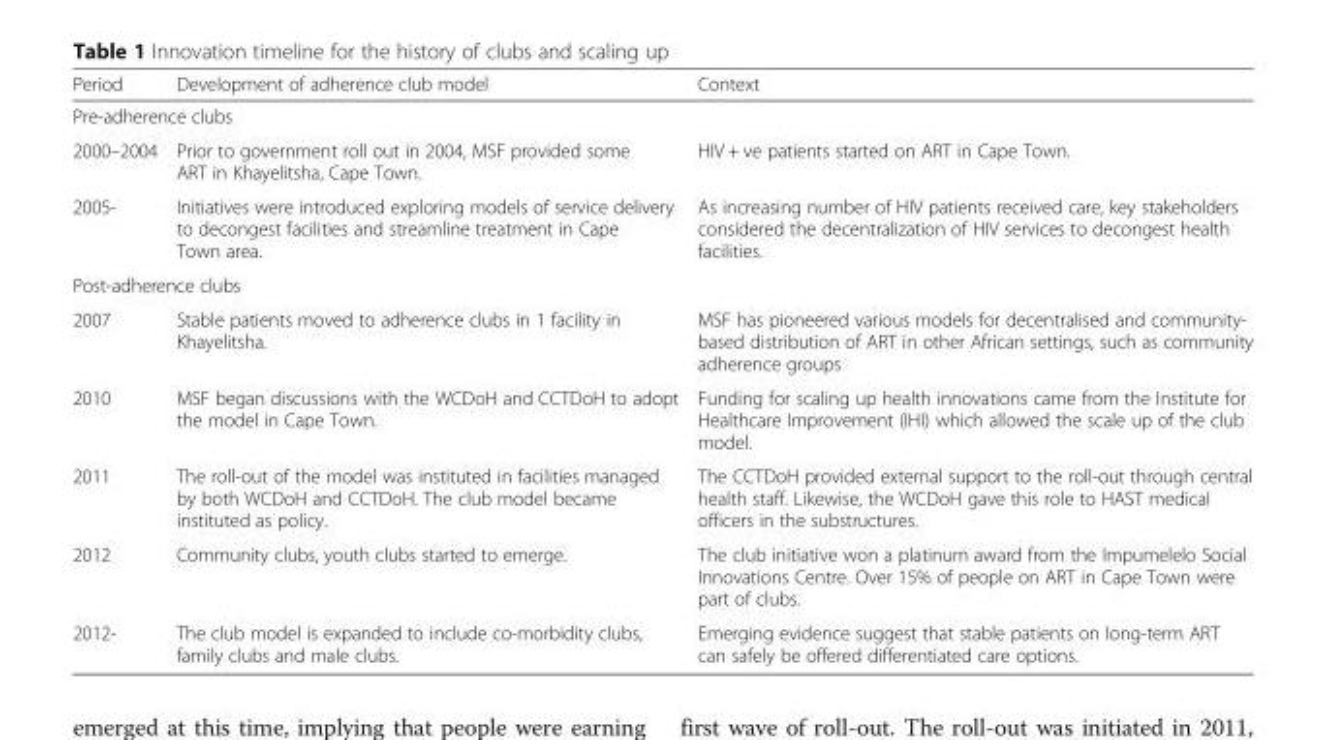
<table><thead><tr><td>Period</td><td>Development of adherence club model</td><td>Context</td></tr></thead><tbody><tr><td colspan="3">Pre-adherence clubs</td></tr><tr><td>2000–2004</td><td>Prior to government roll out in 2004, MSF provided some ART in Khayelitsha, Cape Town.</td><td>HIV + ve patients started on ART in Cape Town.</td></tr><tr><td>2005-</td><td>Initiatives were introduced exploring models of service delivery to decongest facilities and streamline treatment in Cape Town area.</td><td>As increasing number of HIV patients received care, key stakeholders considered the decentralization of HIV services to decongest health facilities.</td></tr><tr><td colspan="3">Post-adherence clubs</td></tr><tr><td>2007</td><td>Stable patients moved to adherence clubs in 1 facility in Khayelitsha.</td><td>MSF has pioneered various models for decentralised and community- based distribution of ART in other African settings, such as community adherence groups</td></tr><tr><td>2010</td><td>MSF began discussions with the WCDoH and CCTDoH to adopt the model in Cape Town.</td><td>Funding for scaling up health innovations came from the Institute for Healthcare Improvement (IHI) which allowed the scale up of the club model.</td></tr><tr><td>2011</td><td>The roll-out of the model was instituted in facilities managed by both WCDoH and CCTDoH. The club model became instituted as policy.</td><td>The CCTDoH provided external support to the roll-out through central health staff. Likewise, the WCDoH gave this role to HAST medical officers in the substructures.</td></tr><tr><td>2012</td><td>Community clubs, youth clubs started to emerge.</td><td>The club initiative won a platinum award from the Impumelelo Social Innovations Centre. Over 15% of people on ART in Cape Town were part of clubs.</td></tr><tr><td>2012-</td><td>The club model is expanded to include co-morbidity clubs, family clubs and male clubs.</td><td>Emerging evidence suggest that stable patients on long-term ART can safely be offered differentiated care options.</td></tr></tbody></table>